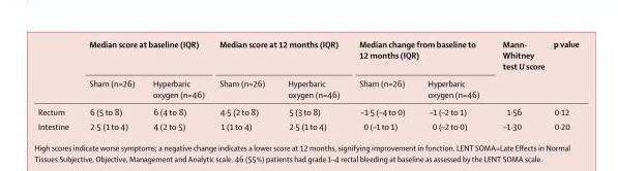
<table><thead><tr><td rowspan="2"></td><td colspan="2">Median score at baseline (IQR)</td><td colspan="2">Median score at 12 months (IQR)</td><td colspan="2">Median change from baseline to 12 months (IQR)</td><td rowspan="2">Mann- Whitney test U score</td><td rowspan="2">p value</td></tr><tr><td>Sham (n=26)</td><td>Hyperbaric oxygen (n=46)</td><td>Sham (n=26)</td><td>Hyperbaric oxygen (n=46)</td><td>Sham (n=26)</td><td>Hyperbaric oxygen (n=46)</td></tr></thead><tbody><tr><td>Rectum</td><td>6 (5 to 8)</td><td>6 (4 to 8)</td><td>4·5 (2 to 8)</td><td>5 (3 to 8)</td><td>–1·5 (–4 to 0)</td><td>–1 (–2 to 1)</td><td>1·56</td><td>0·12</td></tr><tr><td>Intestine</td><td>2·5 (1 to 4)</td><td>4 (2 to 5)</td><td>1 (1 to 4)</td><td>2·5 (1 to 4)</td><td>0 (–1 to 1)</td><td>0 (–2 to 0)</td><td>–1·30</td><td>0·20</td></tr></tbody></table>